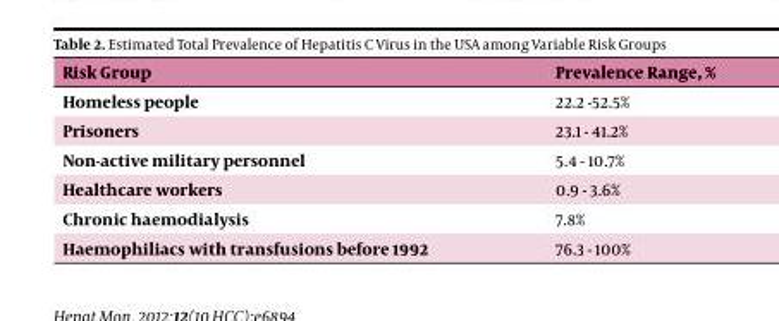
<table><thead><tr><td>Risk Group</td><td>Prevalence Range, %</td></tr></thead><tbody><tr><td>Homeless people</td><td>22.2 -52.5%</td></tr><tr><td>Prisoners</td><td>23.1 - 41.2%</td></tr><tr><td>Non-active military personnel</td><td>5.4 - 10.7%</td></tr><tr><td>Healthcare workers</td><td>0.9 - 3.6%</td></tr><tr><td>Chronic haemodialysis</td><td>7.8%</td></tr><tr><td>Haemophiliacs with transfusions before 1992</td><td>76.3 - 100%</td></tr></tbody></table>